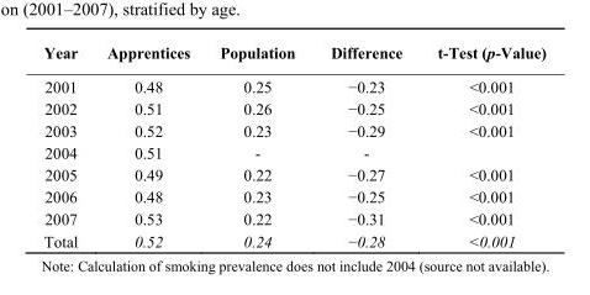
<table><thead><tr><td>Year</td><td>Apprentices</td><td>Population</td><td>Difference</td><td>t-Test (p-Value)</td></tr></thead><tbody><tr><td>2001</td><td>0.48</td><td>0.25</td><td>−0.23</td><td>&lt;0.001</td></tr><tr><td>2002</td><td>0.51</td><td>0.26</td><td>−0.25</td><td>&lt;0.001</td></tr><tr><td>2003</td><td>0.52</td><td>0.23</td><td>−0.29</td><td>&lt;0.001</td></tr><tr><td>2004</td><td>0.51</td><td>-</td><td>-</td><td></td></tr><tr><td>2005</td><td>0.49</td><td>0.22</td><td>−0.27</td><td>&lt;0.001</td></tr><tr><td>2006</td><td>0.48</td><td>0.23</td><td>−0.25</td><td>&lt;0.001</td></tr><tr><td>2007</td><td>0.53</td><td>0.22</td><td>−0.31</td><td>&lt;0.001</td></tr><tr><td>Total</td><td>0.52</td><td>0.24</td><td>−0.28</td><td>&lt;0.001</td></tr></tbody></table>